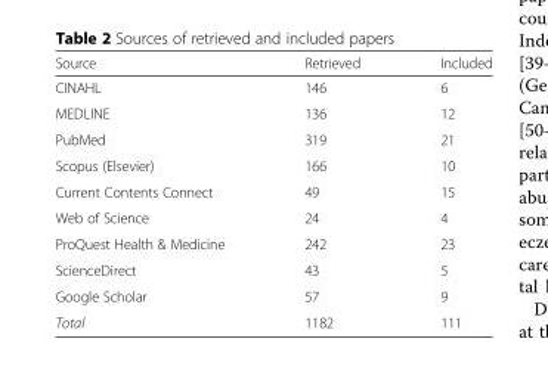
<table><thead><tr><td>Source</td><td>Retrieved</td><td>Included</td></tr></thead><tbody><tr><td>CINAHL</td><td>146</td><td>6</td></tr><tr><td>MEDLINE</td><td>136</td><td>12</td></tr><tr><td>PubMed</td><td>319</td><td>21</td></tr><tr><td>Scopus (Elsevier)</td><td>166</td><td>10</td></tr><tr><td>Current Contents Connect</td><td>49</td><td>15</td></tr><tr><td>Web of Science</td><td>24</td><td>4</td></tr><tr><td>ProQuest Health &amp; Medicine</td><td>242</td><td>23</td></tr><tr><td>ScienceDirect</td><td>43</td><td>5</td></tr><tr><td>Google Scholar</td><td>57</td><td>9</td></tr><tr><td>Total</td><td>1182</td><td>111</td></tr></tbody></table>